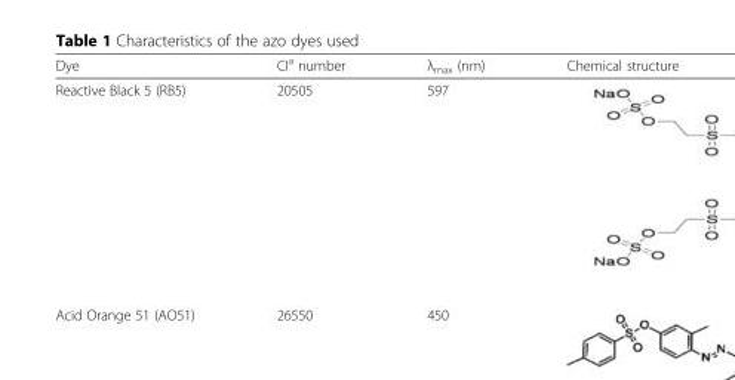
<table><thead><tr><td>Dye</td><td>CI<sup>a</sup> number</td><td>λ<sub>max</sub> (nm)</td><td>Chemical structure</td></tr></thead><tbody><tr><td>Reactive Black 5 (RB5)</td><td>20505</td><td>597</td><td></td></tr><tr><td>Acid Orange 51 (AO51)</td><td>26550</td><td>450</td><td></td></tr></tbody></table>